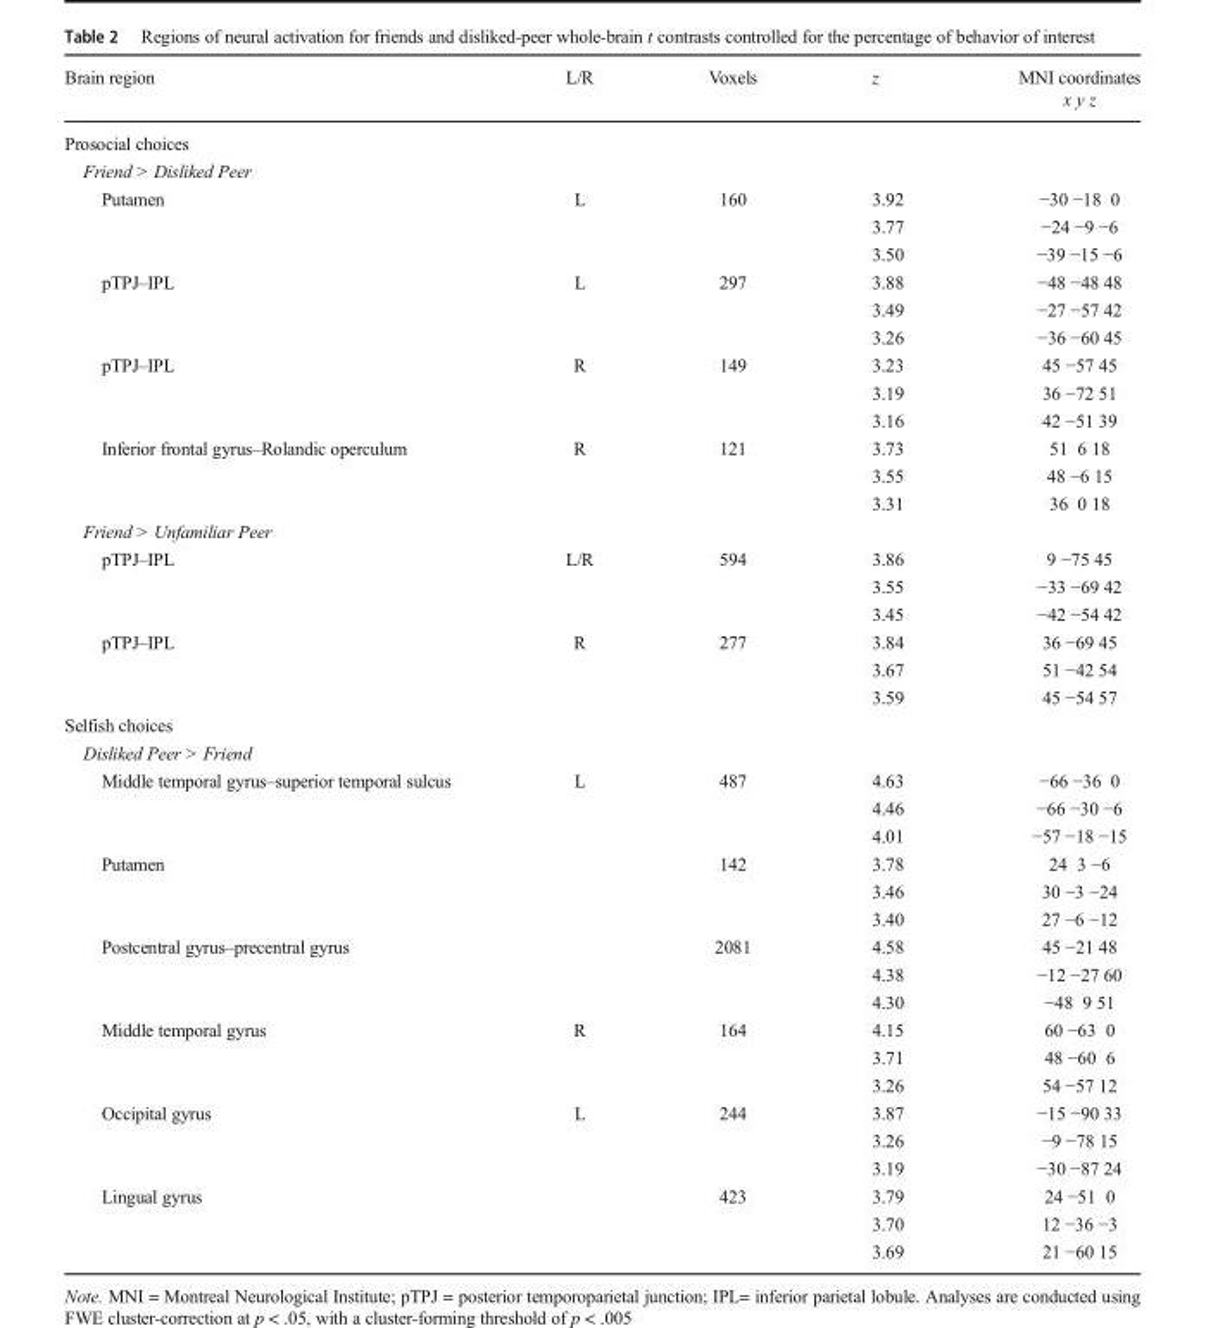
<table><thead><tr><td rowspan="2">Brain region</td><td rowspan="2">L/R</td><td rowspan="2">Voxels</td><td rowspan="2">z</td><td rowspan="2">MNI coordinates x y z</td></tr><tr></tr></thead><tbody><tr><td colspan="5">Prosocial choices</td></tr><tr><td colspan="5">Friend &gt; Disliked Peer</td></tr><tr><td rowspan="3">Putamen</td><td>L</td><td>160</td><td>3.92</td><td>−30 −18 0</td></tr><tr><td></td><td></td><td>3.77</td><td>−24 −9 −6</td></tr><tr><td></td><td></td><td>3.50</td><td>−39 −15 −6</td></tr><tr><td rowspan="3">pTPJ–IPL</td><td>L</td><td>297</td><td>3.88</td><td>−48 −48 48</td></tr><tr><td></td><td></td><td>3.49</td><td>−27 −57 42</td></tr><tr><td></td><td></td><td>3.26</td><td>−36 −60 45</td></tr><tr><td rowspan="3">pTPJ–IPL</td><td>R</td><td>149</td><td>3.23</td><td>45 −57 45</td></tr><tr><td></td><td></td><td>3.19</td><td>36 −72 51</td></tr><tr><td></td><td></td><td>3.16</td><td>42 −51 39</td></tr><tr><td rowspan="3">Inferior frontal gyrus–Rolandic operculum</td><td>R</td><td>121</td><td>3.73</td><td>51 6 18</td></tr><tr><td></td><td></td><td>3.55</td><td>48 −6 15</td></tr><tr><td></td><td></td><td>3.31</td><td>36 0 18</td></tr><tr><td colspan="5">Friend &gt; Unfamiliar Peer</td></tr><tr><td rowspan="3">pTPJ–IPL</td><td>L/R</td><td>594</td><td>3.86</td><td>9 −75 45</td></tr><tr><td></td><td></td><td>3.55</td><td>−33 −69 42</td></tr><tr><td></td><td></td><td>3.45</td><td>−42 −54 42</td></tr><tr><td rowspan="3">pTPJ–IPL</td><td>R</td><td>277</td><td>3.84</td><td>36 −69 45</td></tr><tr><td></td><td></td><td>3.67</td><td>51 −42 54</td></tr><tr><td></td><td></td><td>3.59</td><td>45 −54 57</td></tr><tr><td colspan="5">Selfish choices</td></tr><tr><td colspan="5">Disliked Peer &gt; Friend</td></tr><tr><td rowspan="3">Middle temporal gyrus–superior temporal sulcus</td><td>L</td><td>487</td><td>4.63</td><td>−66 −36 0</td></tr><tr><td></td><td></td><td>4.46</td><td>−66 −30 −6</td></tr><tr><td></td><td></td><td>4.01</td><td>−57 −18 −15</td></tr><tr><td rowspan="3">Putamen</td><td></td><td>142</td><td>3.78</td><td>24 3 −6</td></tr><tr><td></td><td></td><td>3.46</td><td>30 −3 −24</td></tr><tr><td></td><td></td><td>3.40</td><td>27 −6 −12</td></tr><tr><td rowspan="3">Postcentral gyrus–precentral gyrus</td><td></td><td>2081</td><td>4.58</td><td>45 −21 48</td></tr><tr><td></td><td></td><td>4.38</td><td>−12 −27 60</td></tr><tr><td></td><td></td><td>4.30</td><td>−48 9 51</td></tr><tr><td rowspan="3">Middle temporal gyrus</td><td>R</td><td>164</td><td>4.15</td><td>60 −63 0</td></tr><tr><td></td><td></td><td>3.71</td><td>48 −60 6</td></tr><tr><td></td><td></td><td>3.26</td><td>54 −57 12</td></tr><tr><td rowspan="3">Occipital gyrus</td><td>L</td><td>244</td><td>3.87</td><td>−15 −90 33</td></tr><tr><td></td><td></td><td>3.26</td><td>−9 −78 15</td></tr><tr><td></td><td></td><td>3.19</td><td>−30 −87 24</td></tr><tr><td rowspan="3">Lingual gyrus</td><td></td><td>423</td><td>3.79</td><td>24 −51 0</td></tr><tr><td></td><td></td><td>3.70</td><td>12 −36 −3</td></tr><tr><td></td><td></td><td>3.69</td><td>21 −60 15</td></tr></tbody></table>